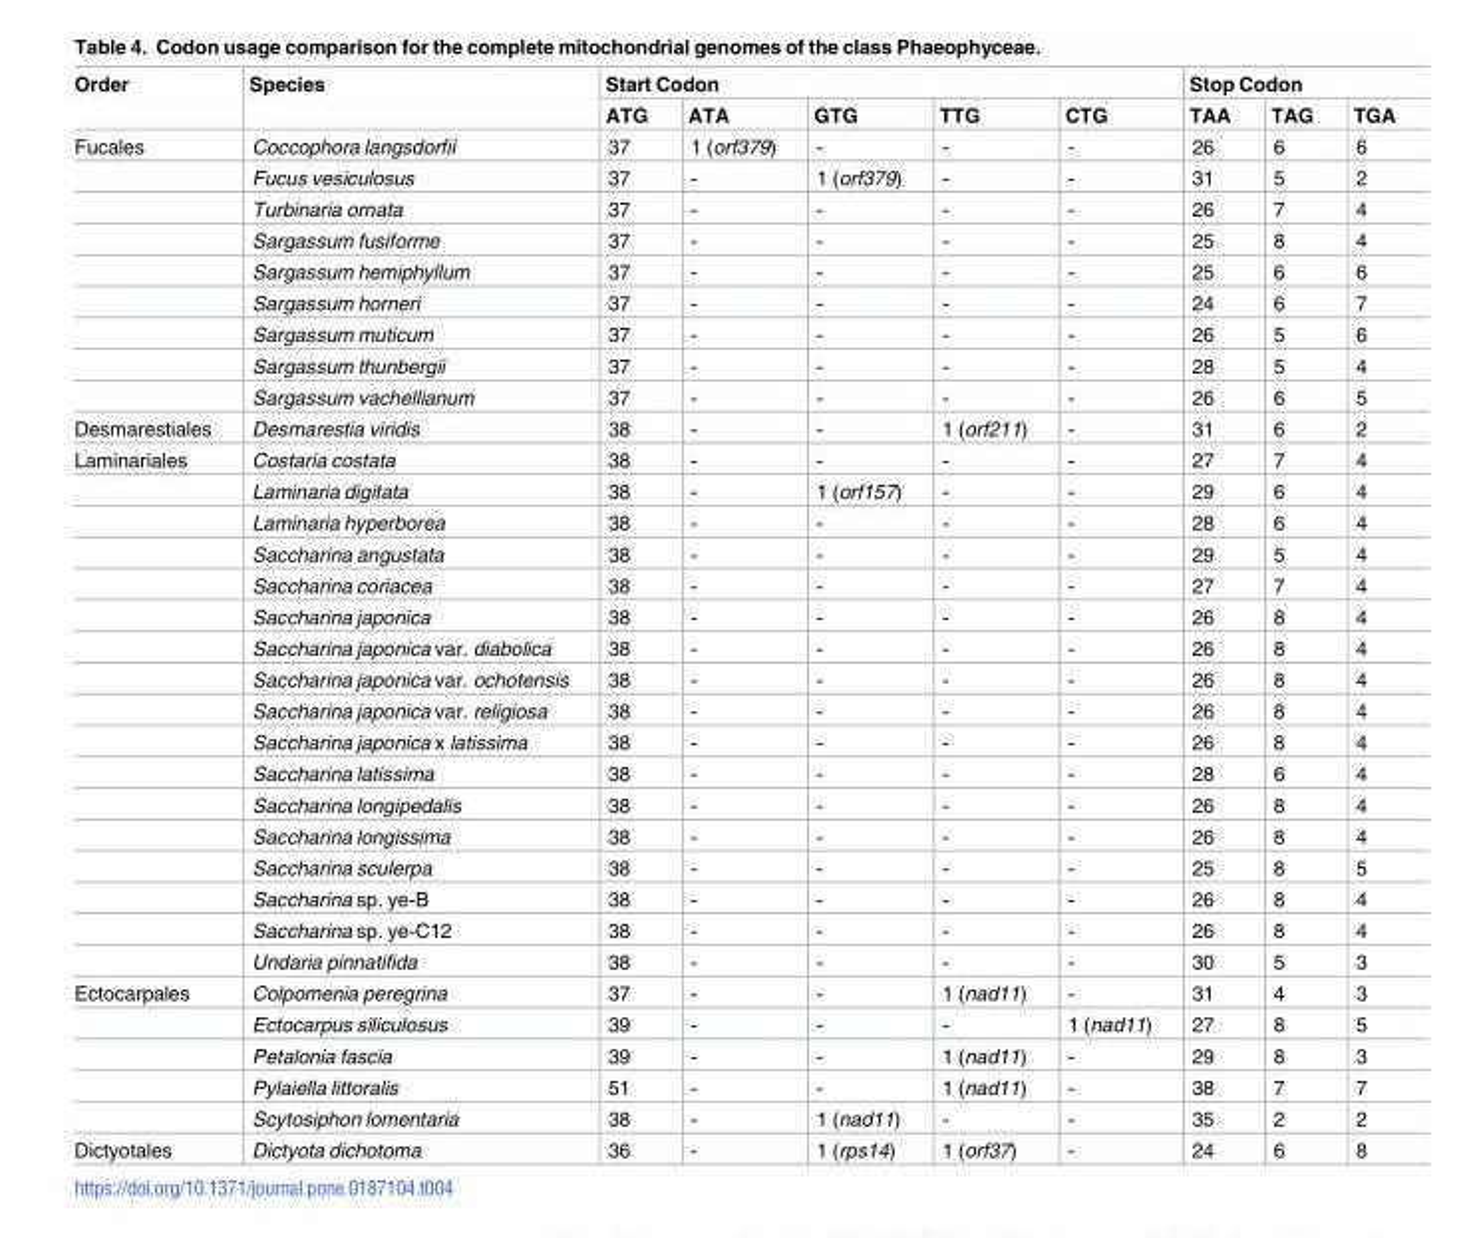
<table><thead><tr><td rowspan="2">Order</td><td rowspan="2">Species</td><td colspan="5">Start Codon</td><td colspan="3">Stop Codon</td></tr><tr><td>ATG</td><td>ATA</td><td>GTG</td><td>TTG</td><td>CTG</td><td>TAA</td><td>TAG</td><td>TGA</td></tr></thead><tbody><tr><td rowspan="9">Fucales</td><td>Coccophora langsdorfii</td><td>37</td><td>1 (orf379)</td><td>-</td><td>-</td><td>-</td><td>26</td><td>6</td><td>6</td></tr><tr><td>Fucus vesiculosus</td><td>37</td><td>-</td><td>1 (orf379)</td><td>-</td><td>-</td><td>31</td><td>5</td><td>2</td></tr><tr><td>Turbinaria ornata</td><td>37</td><td>-</td><td>-</td><td>-</td><td>-</td><td>26</td><td>7</td><td>4</td></tr><tr><td>Sargassum fusiforme</td><td>37</td><td>-</td><td>-</td><td>-</td><td>-</td><td>25</td><td>8</td><td>4</td></tr><tr><td>Sargassum hemiphyllum</td><td>37</td><td>-</td><td>-</td><td>-</td><td>-</td><td>25</td><td>6</td><td>6</td></tr><tr><td>Sargassum horneri</td><td>37</td><td>-</td><td>-</td><td>-</td><td>-</td><td>24</td><td>6</td><td>7</td></tr><tr><td>Sargassum muticum</td><td>37</td><td>-</td><td>-</td><td>-</td><td>-</td><td>26</td><td>5</td><td>6</td></tr><tr><td>Sargassum thunbergii</td><td>37</td><td>-</td><td>-</td><td>-</td><td>-</td><td>28</td><td>5</td><td>4</td></tr><tr><td>Sargassum vachellianum</td><td>37</td><td>-</td><td>-</td><td>-</td><td>-</td><td>26</td><td>6</td><td>5</td></tr><tr><td>Desmarestiales</td><td>Desmarestia viridis</td><td>38</td><td>-</td><td>-</td><td>1 (orf211)</td><td>-</td><td>31</td><td>6</td><td>2</td></tr><tr><td rowspan="17">Laminariales</td><td>Costaria costata</td><td>38</td><td>-</td><td>-</td><td>-</td><td>-</td><td>27</td><td>7</td><td>4</td></tr><tr><td>Laminaria digitata</td><td>38</td><td>-</td><td>1 (orf157)</td><td>-</td><td>-</td><td>29</td><td>6</td><td>4</td></tr><tr><td>Laminaria hyperborea</td><td>38</td><td>-</td><td>-</td><td>-</td><td>-</td><td>28</td><td>6</td><td>4</td></tr><tr><td>Saccharina angustata</td><td>38</td><td>-</td><td>-</td><td>-</td><td>-</td><td>29</td><td>5</td><td>4</td></tr><tr><td>Saccharina coriacea</td><td>38</td><td>-</td><td>-</td><td>-</td><td>-</td><td>27</td><td>7</td><td>4</td></tr><tr><td>Saccharina japonica</td><td>38</td><td>-</td><td>-</td><td>-</td><td>-</td><td>26</td><td>8</td><td>4</td></tr><tr><td>Saccharina japonica var. diabolica</td><td>38</td><td>-</td><td>-</td><td>-</td><td>-</td><td>26</td><td>8</td><td>4</td></tr><tr><td>Saccharina japonica var. ochotensis</td><td>38</td><td>-</td><td>-</td><td>-</td><td>-</td><td>26</td><td>8</td><td>4</td></tr><tr><td>Saccharina japonica var. religiosa</td><td>38</td><td>-</td><td>-</td><td>-</td><td>-</td><td>26</td><td>8</td><td>4</td></tr><tr><td>Saccharina japonica x latissima</td><td>38</td><td>-</td><td>-</td><td>-</td><td>-</td><td>26</td><td>8</td><td>4</td></tr><tr><td>Saccharina latissima</td><td>38</td><td>-</td><td>-</td><td>-</td><td>-</td><td>28</td><td>6</td><td>4</td></tr><tr><td>Saccharina longipedalis</td><td>38</td><td>-</td><td>-</td><td>-</td><td>-</td><td>26</td><td>8</td><td>4</td></tr><tr><td>Saccharina longissima</td><td>38</td><td>-</td><td>-</td><td>-</td><td>-</td><td>26</td><td>8</td><td>4</td></tr><tr><td>Saccharina sculerpa</td><td>38</td><td>-</td><td>-</td><td>-</td><td>-</td><td>25</td><td>8</td><td>5</td></tr><tr><td>Saccharina sp. ye-B</td><td>38</td><td>-</td><td>-</td><td>-</td><td>-</td><td>26</td><td>8</td><td>4</td></tr><tr><td>Saccharina sp. ye-C12</td><td>38</td><td>-</td><td>-</td><td>-</td><td>-</td><td>26</td><td>8</td><td>4</td></tr><tr><td>Undaria pinnatifida</td><td>38</td><td>-</td><td>-</td><td>-</td><td>-</td><td>30</td><td>5</td><td>3</td></tr><tr><td rowspan="5">Ectocarpales</td><td>Colpomenia peregrina</td><td>37</td><td>-</td><td>-</td><td>1 (nad11)</td><td>-</td><td>31</td><td>4</td><td>3</td></tr><tr><td>Ectocarpus siliculosus</td><td>39</td><td>-</td><td>-</td><td>-</td><td>1 (nad11)</td><td>27</td><td>8</td><td>5</td></tr><tr><td>Petalonia fascia</td><td>39</td><td>-</td><td>-</td><td>1 (nad11)</td><td>-</td><td>29</td><td>8</td><td>3</td></tr><tr><td>Pylaiella littoralis</td><td>51</td><td>-</td><td>-</td><td>1 (nad11)</td><td>-</td><td>38</td><td>7</td><td>7</td></tr><tr><td>Scytosiphon lomentaria</td><td>38</td><td>-</td><td>1 (nad11)</td><td>-</td><td>-</td><td>35</td><td>2</td><td>2</td></tr><tr><td>Dictyotales</td><td>Dictyota dichotoma</td><td>36</td><td>-</td><td>1 (rps14)</td><td>1 (orf37)</td><td>-</td><td>24</td><td>6</td><td>8</td></tr></tbody></table>